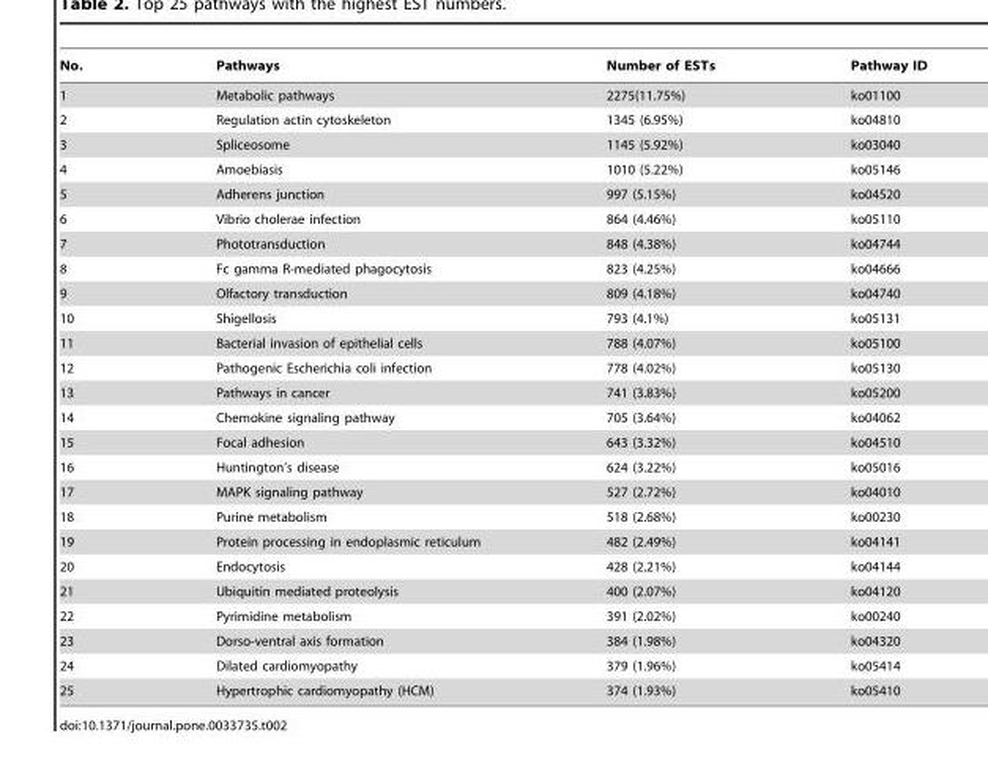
<table><thead><tr><td>No.</td><td>Pathways</td><td>Number of ESTs</td><td>Pathway ID</td></tr></thead><tbody><tr><td>1</td><td>Metabolic pathways</td><td>2275(11.75%)</td><td>ko01100</td></tr><tr><td>2</td><td>Regulation actin cytoskeleton</td><td>1345 (6.95%)</td><td>ko04810</td></tr><tr><td>3</td><td>Spliceosome</td><td>1145 (5.92%)</td><td>ko03040</td></tr><tr><td>4</td><td>Amoebiasis</td><td>1010 (5.22%)</td><td>ko05146</td></tr><tr><td>5</td><td>Adherens junction</td><td>997 (5.15%)</td><td>ko04520</td></tr><tr><td>6</td><td>Vibrio cholerae infection</td><td>864 (4.46%)</td><td>ko05110</td></tr><tr><td>7</td><td>Phototransduction</td><td>848 (4.38%)</td><td>ko04744</td></tr><tr><td>8</td><td>Fc gamma R-mediated phagocytosis</td><td>823 (4.25%)</td><td>ko04666</td></tr><tr><td>9</td><td>Olfactory transduction</td><td>809 (4.18%)</td><td>ko04740</td></tr><tr><td>10</td><td>Shigellosis</td><td>793 (4.1%)</td><td>ko05131</td></tr><tr><td>11</td><td>Bacterial invasion of epithelial cells</td><td>788 (4.07%)</td><td>ko05100</td></tr><tr><td>12</td><td>Pathogenic Escherichia coli infection</td><td>778 (4.02%)</td><td>ko05130</td></tr><tr><td>13</td><td>Pathways in cancer</td><td>741 (3.83%)</td><td>ko05200</td></tr><tr><td>14</td><td>Chemokine signaling pathway</td><td>705 (3.64%)</td><td>ko04062</td></tr><tr><td>15</td><td>Focal adhesion</td><td>643 (3.32%)</td><td>ko04510</td></tr><tr><td>16</td><td>Huntington’s disease</td><td>624 (3.22%)</td><td>ko05016</td></tr><tr><td>17</td><td>MAPK signaling pathway</td><td>527 (2.72%)</td><td>ko04010</td></tr><tr><td>18</td><td>Purine metabolism</td><td>518 (2.68%)</td><td>ko00230</td></tr><tr><td>19</td><td>Protein processing in endoplasmic reticulum</td><td>482 (2.49%)</td><td>ko04141</td></tr><tr><td>20</td><td>Endocytosis</td><td>428 (2.21%)</td><td>ko04144</td></tr><tr><td>21</td><td>Ubiquitin mediated proteolysis</td><td>400 (2.07%)</td><td>ko04120</td></tr><tr><td>22</td><td>Pyrimidine metabolism</td><td>391 (2.02%)</td><td>ko00240</td></tr><tr><td>23</td><td>Dorso-ventral axis formation</td><td>384 (1.98%)</td><td>ko04320</td></tr><tr><td>24</td><td>Dilated cardiomyopathy</td><td>379 (1.96%)</td><td>ko05414</td></tr><tr><td>25</td><td>Hypertrophic cardiomyopathy (HCM)</td><td>374 (1.93%)</td><td>ko05410</td></tr></tbody></table>